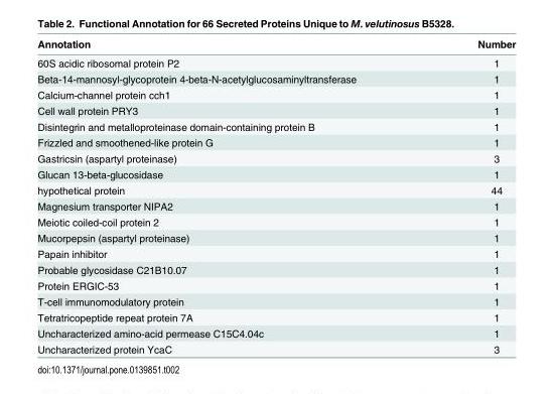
<table><thead><tr><td>Annotation</td><td>Number</td></tr></thead><tbody><tr><td>60S acidic ribosomal protein P2</td><td>1</td></tr><tr><td>Beta-14-mannosyl-glycoprotein 4-beta-N-acetylglucosaminyltransferase</td><td>1</td></tr><tr><td>Calcium-channel protein cch1</td><td>1</td></tr><tr><td>Cell wall protein PRY3</td><td>1</td></tr><tr><td>Disintegrin and metalloproteinase domain-containing protein B</td><td>1</td></tr><tr><td>Frizzled and smoothened-like protein G</td><td>1</td></tr><tr><td>Gastricsin (aspartyl proteinase)</td><td>3</td></tr><tr><td>Glucan 13-beta-glucosidase</td><td>1</td></tr><tr><td>hypothetical protein</td><td>44</td></tr><tr><td>Magnesium transporter NIPA2</td><td>1</td></tr><tr><td>Meiotic coiled-coil protein 2</td><td>1</td></tr><tr><td>Mucorpepsin (aspartyl proteinase)</td><td>1</td></tr><tr><td>Papain inhibitor</td><td>1</td></tr><tr><td>Probable glycosidase C21B10.07</td><td>1</td></tr><tr><td>Protein ERGIC-53</td><td>1</td></tr><tr><td>T-cell immunomodulatory protein</td><td>1</td></tr><tr><td>Tetratricopeptide repeat protein 7A</td><td>1</td></tr><tr><td>Uncharacterized amino-acid permease C15C4.04c</td><td>1</td></tr><tr><td>Uncharacterized protein YcaC</td><td>3</td></tr></tbody></table>